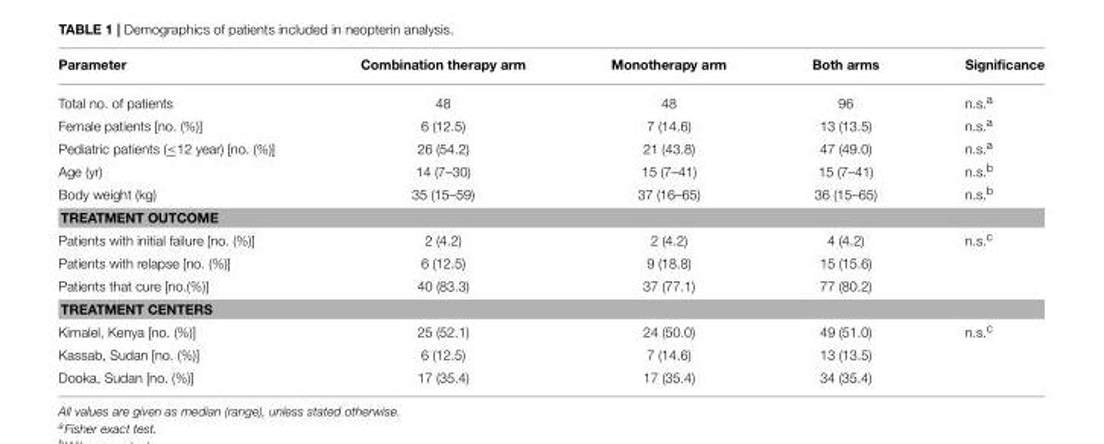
<table><thead><tr><td>Parameter</td><td>Combination therapy arm</td><td>Monotherapy arm</td><td>Both arms</td><td>Significance</td></tr></thead><tbody><tr><td>Total no. of patients</td><td>48</td><td>48</td><td>96</td><td>n.s.<sup>a</sup></td></tr><tr><td>Female patients [no. (%)]</td><td>6 (12.5)</td><td>7 (14.6)</td><td>13 (13.5)</td><td>n.s.<sup>a</sup></td></tr><tr><td>Pediatric patients (≤12 year) [no. (%)]</td><td>26 (54.2)</td><td>21 (43.8)</td><td>47 (49.0)</td><td>n.s.<sup>a</sup></td></tr><tr><td>Age (yr)</td><td>14 (7–30)</td><td>15 (7–41)</td><td>15 (7–41)</td><td>n.s.<sup>b</sup></td></tr><tr><td>Body weight (kg)</td><td>35 (15–59)</td><td>37 (16–65)</td><td>36 (15–65)</td><td>n.s.<sup>b</sup></td></tr><tr><td colspan="5">TREATMENT OUTCOME</td></tr><tr><td>Patients with initial failure [no. (%)]</td><td>2 (4.2)</td><td>2 (4.2)</td><td>4 (4.2)</td><td>n.s.<sup>c</sup></td></tr><tr><td>Patients with relapse [no. (%)]</td><td>6 (12.5)</td><td>9 (18.8)</td><td>15 (15.6)</td><td></td></tr><tr><td>Patients that cure [no.(%)]</td><td>40 (83.3)</td><td>37 (77.1)</td><td>77 (80.2)</td><td></td></tr><tr><td colspan="5">TREATMENT CENTERS</td></tr><tr><td>Kimalel, Kenya [no. (%)]</td><td>25 (52.1)</td><td>24 (50.0)</td><td>49 (51.0)</td><td>n.s.<sup>c</sup></td></tr><tr><td>Kassab, Sudan [no. (%)]</td><td>6 (12.5)</td><td>7 (14.6)</td><td>13 (13.5)</td><td></td></tr><tr><td>Dooka, Sudan [no. (%)]</td><td>17 (35.4)</td><td>17 (35.4)</td><td>34 (35.4)</td><td></td></tr></tbody></table>